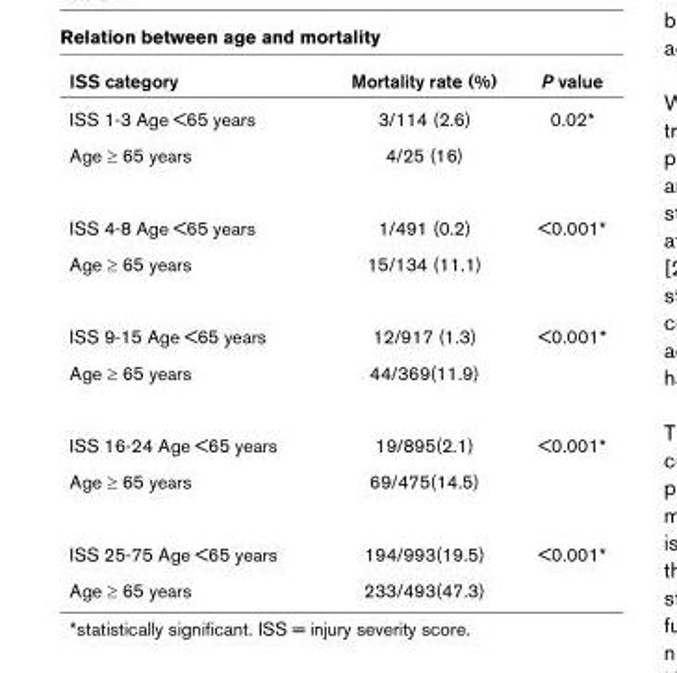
<table><thead><tr><td>ISS category</td><td>Mortality rate (%)</td><td>P value</td></tr></thead><tbody><tr><td>ISS 1-3 Age &lt;65 years</td><td>3/114 (2.6)</td><td>0.02*</td></tr><tr><td>Age ≥ 65 years</td><td>4/25 (16)</td><td></td></tr><tr><td>ISS 4-8 Age &lt;65 years</td><td>1/491 (0.2)</td><td>&lt;0.001*</td></tr><tr><td>Age ≥ 65 years</td><td>15/134 (11.1)</td><td></td></tr><tr><td>ISS 9-15 Age &lt;65 years</td><td>12/917 (1.3)</td><td>&lt;0.001*</td></tr><tr><td>Age ≥ 65 years</td><td>44/369(11.9)</td><td></td></tr><tr><td>ISS 16-24 Age &lt;65 years</td><td>19/895(2.1)</td><td>&lt;0.001*</td></tr><tr><td>Age ≥ 65 years</td><td>69/475(14.5)</td><td></td></tr><tr><td>ISS 25-75 Age &lt;65 years</td><td>194/993(19.5)</td><td>&lt;0.001*</td></tr><tr><td>Age ≥ 65 years</td><td>233/493(47.3)</td><td></td></tr></tbody></table>